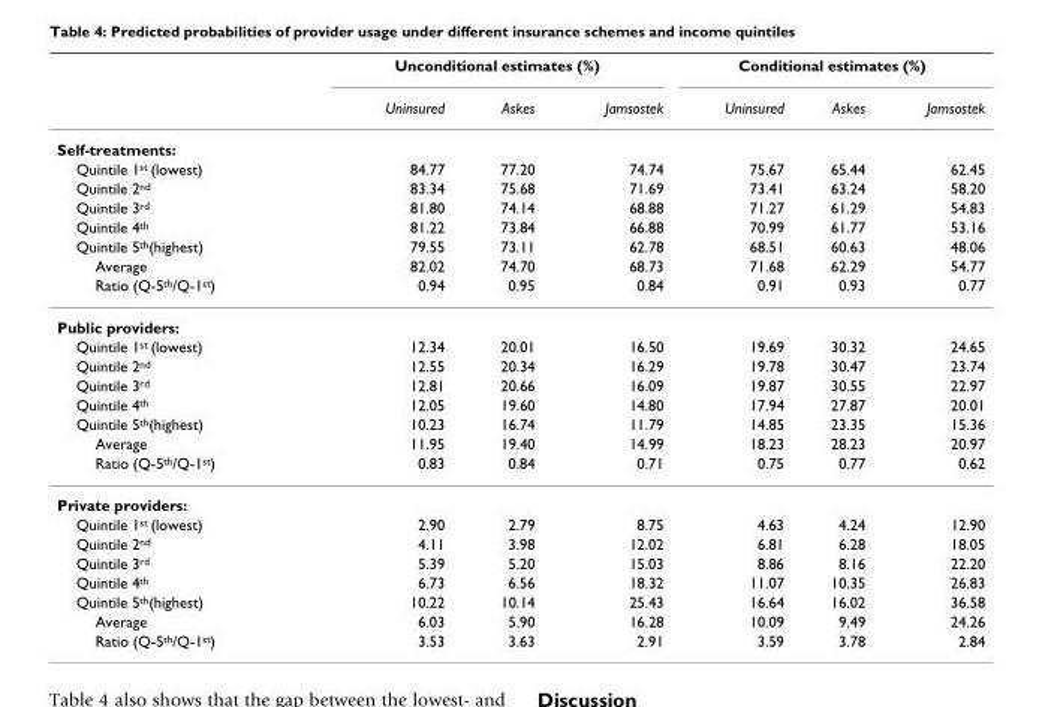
<table><thead><tr><td rowspan="2"></td><td colspan="3">Unconditional estimates (%)</td><td colspan="3">Conditional estimates (%)</td></tr><tr><td>Uninsured</td><td>Askes</td><td>Jamsostek</td><td>Uninsured</td><td>Askes</td><td>Jamsostek</td></tr></thead><tbody><tr><td colspan="7">Self-treatments:</td></tr><tr><td>Quintile 1<sup>st</sup> (lowest)</td><td>84.77</td><td>77.20</td><td>74.74</td><td>75.67</td><td>65.44</td><td>62.45</td></tr><tr><td>Quintile 2<sup>nd</sup></td><td>83.34</td><td>75.68</td><td>71.69</td><td>73.41</td><td>63.24</td><td>58.20</td></tr><tr><td>Quintile 3<sup>rd</sup></td><td>81.80</td><td>74.14</td><td>68.88</td><td>71.27</td><td>61.29</td><td>54.83</td></tr><tr><td>Quintile 4<sup>th</sup></td><td>81.22</td><td>73.84</td><td>66.88</td><td>70.99</td><td>61.77</td><td>53.16</td></tr><tr><td>Quintile 5<sup>th</sup>(highest)</td><td>79.55</td><td>73.11</td><td>62.78</td><td>68.51</td><td>60.63</td><td>48.06</td></tr><tr><td>Average</td><td>82.02</td><td>74.70</td><td>68.73</td><td>71.68</td><td>62.29</td><td>54.77</td></tr><tr><td>Ratio (Q-5<sup>th</sup>/Q-1<sup>st</sup>)</td><td>0.94</td><td>0.95</td><td>0.84</td><td>0.91</td><td>0.93</td><td>0.77</td></tr><tr><td colspan="7">Public providers:</td></tr><tr><td>Quintile 1<sup>st</sup> (lowest)</td><td>12.34</td><td>20.01</td><td>16.50</td><td>19.69</td><td>30.32</td><td>24.65</td></tr><tr><td>Quintile 2<sup>nd</sup></td><td>12.55</td><td>20.34</td><td>16.29</td><td>19.78</td><td>30.47</td><td>23.74</td></tr><tr><td>Quintile 3<sup>rd</sup></td><td>12.81</td><td>20.66</td><td>16.09</td><td>19.87</td><td>30.55</td><td>22.97</td></tr><tr><td>Quintile 4<sup>th</sup></td><td>12.05</td><td>19.60</td><td>14.80</td><td>17.94</td><td>27.87</td><td>20.01</td></tr><tr><td>Quintile 5<sup>th</sup>(highest)</td><td>10.23</td><td>16.74</td><td>11.79</td><td>14.85</td><td>23.35</td><td>15.36</td></tr><tr><td>Average</td><td>11.95</td><td>19.40</td><td>14.99</td><td>18.23</td><td>28.23</td><td>20.97</td></tr><tr><td>Ratio (Q-5<sup>th</sup>/Q-1<sup>st</sup>)</td><td>0.83</td><td>0.84</td><td>0.71</td><td>0.75</td><td>0.77</td><td>0.62</td></tr><tr><td colspan="7">Private providers:</td></tr><tr><td>Quintile 1<sup>st</sup> (lowest)</td><td>2.90</td><td>2.79</td><td>8.75</td><td>4.63</td><td>4.24</td><td>12.90</td></tr><tr><td>Quintile 2<sup>nd</sup></td><td>4.11</td><td>3.98</td><td>12.02</td><td>6.81</td><td>6.28</td><td>18.05</td></tr><tr><td>Quintile 3<sup>rd</sup></td><td>5.39</td><td>5.20</td><td>15.03</td><td>8.86</td><td>8.16</td><td>22.20</td></tr><tr><td>Quintile 4<sup>th</sup></td><td>6.73</td><td>6.56</td><td>18.32</td><td>11.07</td><td>10.35</td><td>26.83</td></tr><tr><td>Quintile 5<sup>th</sup>(highest)</td><td>10.22</td><td>10.14</td><td>25.43</td><td>16.64</td><td>16.02</td><td>36.58</td></tr><tr><td>Average</td><td>6.03</td><td>5.90</td><td>16.28</td><td>10.09</td><td>9.49</td><td>24.26</td></tr><tr><td>Ratio (Q-5<sup>th</sup>/Q-1<sup>st</sup>)</td><td>3.53</td><td>3.63</td><td>2.91</td><td>3.59</td><td>3.78</td><td>2.84</td></tr></tbody></table>